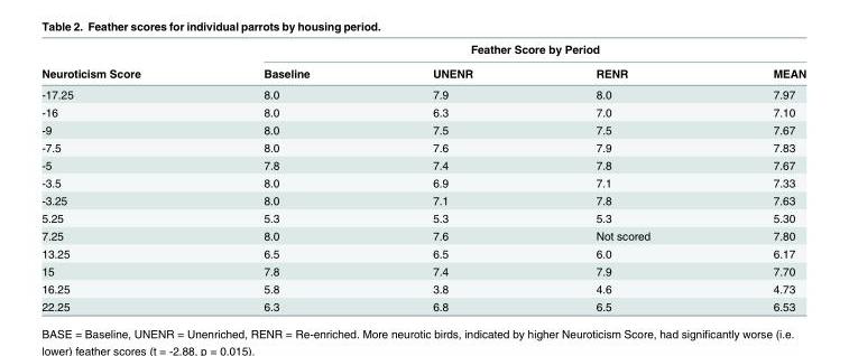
<table><thead><tr><td rowspan="2">Neuroticism Score</td><td colspan="4">Feather Score by Period</td></tr><tr><td>Baseline</td><td>UNENR</td><td>RENR</td><td>MEAN</td></tr></thead><tbody><tr><td>-17.25</td><td>8.0</td><td>7.9</td><td>8.0</td><td>7.97</td></tr><tr><td>-16</td><td>8.0</td><td>6.3</td><td>7.0</td><td>7.10</td></tr><tr><td>-9</td><td>8.0</td><td>7.5</td><td>7.5</td><td>7.67</td></tr><tr><td>-7.5</td><td>8.0</td><td>7.6</td><td>7.9</td><td>7.83</td></tr><tr><td>-5</td><td>7.8</td><td>7.4</td><td>7.8</td><td>7.67</td></tr><tr><td>-3.5</td><td>8.0</td><td>6.9</td><td>7.1</td><td>7.33</td></tr><tr><td>-3.25</td><td>8.0</td><td>7.1</td><td>7.8</td><td>7.63</td></tr><tr><td>5.25</td><td>5.3</td><td>5.3</td><td>5.3</td><td>5.30</td></tr><tr><td>7.25</td><td>8.0</td><td>7.6</td><td>Not scored</td><td>7.80</td></tr><tr><td>13.25</td><td>6.5</td><td>6.5</td><td>6.0</td><td>6.17</td></tr><tr><td>15</td><td>7.8</td><td>7.4</td><td>7.9</td><td>7.70</td></tr><tr><td>16.25</td><td>5.8</td><td>3.8</td><td>4.6</td><td>4.73</td></tr><tr><td>22.25</td><td>6.3</td><td>6.8</td><td>6.5</td><td>6.53</td></tr></tbody></table>